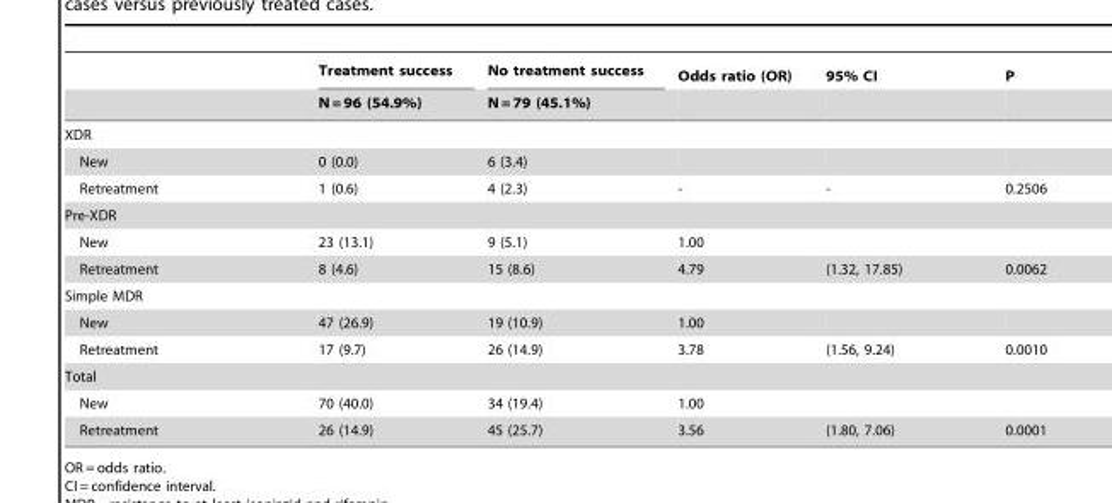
<table><thead><tr><td rowspan="2"></td><td rowspan="2">Treatment success N = 96 (54.9%)</td><td rowspan="2">No treatment success N = 79 (45.1%)</td><td rowspan="2">Odds ratio (OR)</td><td rowspan="2">95% CI</td><td rowspan="2">P</td></tr><tr></tr></thead><tbody><tr><td colspan="6">XDR</td></tr><tr><td>New</td><td>0 (0.0)</td><td>6 (3.4)</td><td></td><td></td><td></td></tr><tr><td>Retreatment</td><td>1 (0.6)</td><td>4 (2.3)</td><td>-</td><td>-</td><td>0.2506</td></tr><tr><td colspan="6">Pre-XDR</td></tr><tr><td>New</td><td>23 (13.1)</td><td>9 (5.1)</td><td>1.00</td><td></td><td></td></tr><tr><td>Retreatment</td><td>8 (4.6)</td><td>15 (8.6)</td><td>4.79</td><td>(1.32, 17.85)</td><td>0.0062</td></tr><tr><td colspan="6">Simple MDR</td></tr><tr><td>New</td><td>47 (26.9)</td><td>19 (10.9)</td><td>1.00</td><td></td><td></td></tr><tr><td>Retreatment</td><td>17 (9.7)</td><td>26 (14.9)</td><td>3.78</td><td>(1.56, 9.24)</td><td>0.0010</td></tr><tr><td colspan="6">Total</td></tr><tr><td>New</td><td>70 (40.0)</td><td>34 (19.4)</td><td>1.00</td><td></td><td></td></tr><tr><td>Retreatment</td><td>26 (14.9)</td><td>45 (25.7)</td><td>3.56</td><td>(1.80, 7.06)</td><td>0.0001</td></tr></tbody></table>